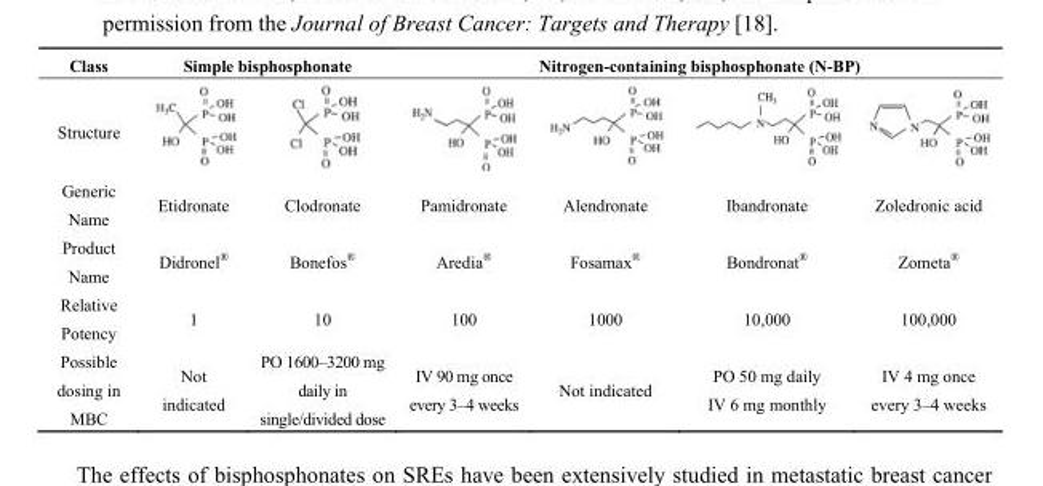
<table><thead><tr><td rowspan="2">Class Structure</td><td colspan="2">Simple bisphosphonate</td><td colspan="4">Nitrogen-containing bisphosphonate (N-BP)</td></tr><tr><td></td><td></td><td></td><td></td><td></td><td></td></tr></thead><tbody><tr><td>Generic Name</td><td>Etidronate</td><td>Clodronate</td><td>Pamidronate</td><td>Alendronate</td><td>Ibandronate</td><td>Zoledronic acid</td></tr><tr><td>Product Name</td><td>Didronel<sup>®</sup></td><td>Bonefos<sup>®</sup></td><td>Aredia<sup>®</sup></td><td>Fosamax<sup>®</sup></td><td>Bondronat<sup>®</sup></td><td>Zometa<sup>®</sup></td></tr><tr><td>Relative Potency</td><td>1</td><td>10</td><td>100</td><td>1000</td><td>10,000</td><td>100,000</td></tr><tr><td>Possible dosing in MBC</td><td>Not indicated</td><td>PO 1600–3200 mg daily in single/divided dose</td><td>IV 90 mg once every 3–4 weeks</td><td>Not indicated</td><td>PO 50 mg daily IV 6 mg monthly</td><td>IV 4 mg once every 3–4 weeks</td></tr></tbody></table>